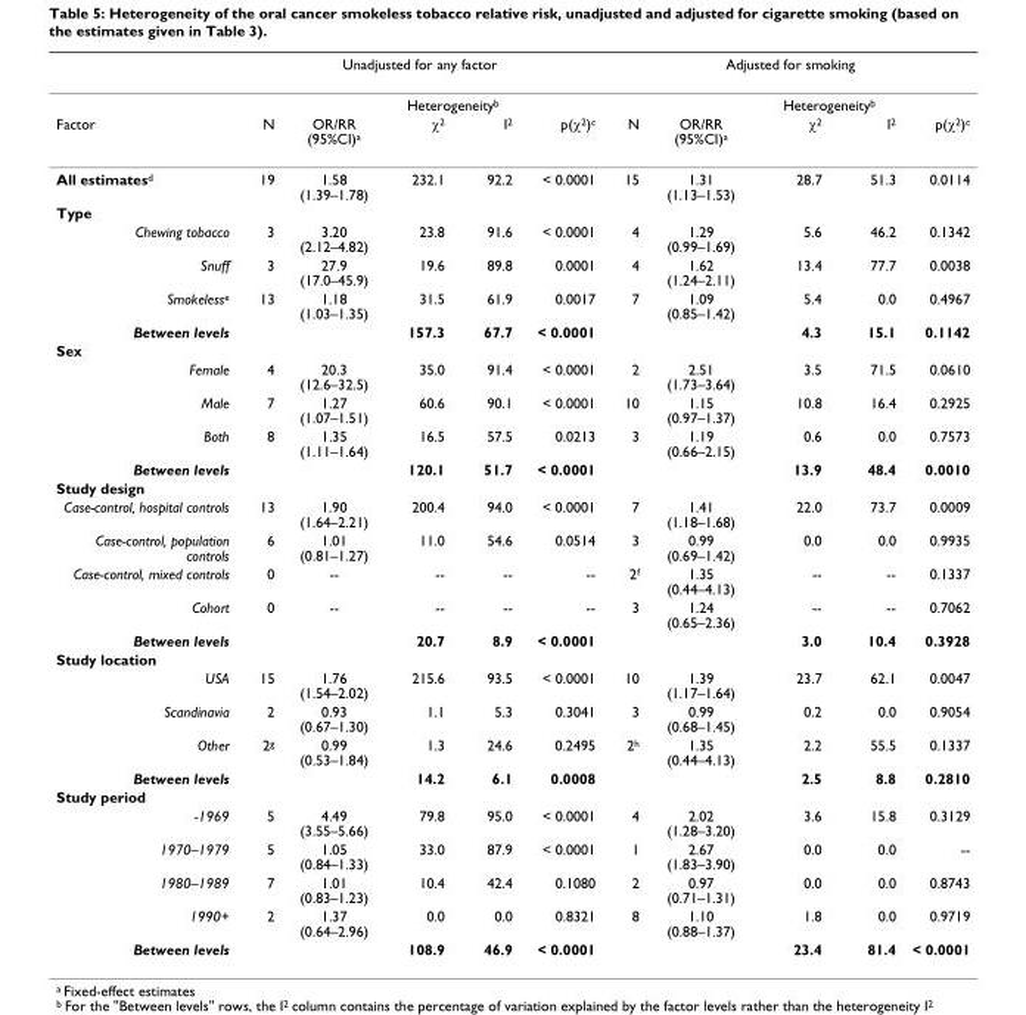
<table><thead><tr><td rowspan="3">Factor</td><td colspan="5">Unadjusted for any factor</td><td colspan="5">Adjusted for smoking</td></tr><tr><td rowspan="2">N</td><td rowspan="2">OR/RR (95%CI)<sup>a</sup></td><td colspan="2">Heterogeneity<sup>b</sup></td><td rowspan="2">p(χ<sup>2</sup>)<sup>c</sup></td><td rowspan="2">N</td><td rowspan="2">OR/RR (95%CI)<sup>a</sup></td><td colspan="2">Heterogeneity<sup>b</sup></td><td rowspan="2">p(χ<sup>2</sup>)<sup>c</sup></td></tr><tr><td>χ<sup>2</sup></td><td>I<sup>2</sup></td><td>χ<sup>2</sup></td><td>I<sup>2</sup></td></tr></thead><tbody><tr><td>All estimates<sup>d</sup></td><td>19</td><td>1.58 (1.39–1.78)</td><td>232.1</td><td>92.2</td><td>&lt; 0.0001</td><td>15</td><td>1.31 (1.13–1.53)</td><td>28.7</td><td>51.3</td><td>0.0114</td></tr><tr><td colspan="11">Type</td></tr><tr><td>Chewing tobacco</td><td>3</td><td>3.20 (2.12–4.82)</td><td>23.8</td><td>91.6</td><td>&lt; 0.0001</td><td>4</td><td>1.29 (0.99–1.69)</td><td>5.6</td><td>46.2</td><td>0.1342</td></tr><tr><td>Snuff</td><td>3</td><td>27.9 (17.0–45.9)</td><td>19.6</td><td>89.8</td><td>0.0001</td><td>4</td><td>1.62 (1.24–2.11)</td><td>13.4</td><td>77.7</td><td>0.0038</td></tr><tr><td>Smokeless<sup>e</sup></td><td>13</td><td>1.18 (1.03–1.35)</td><td>31.5</td><td>61.9</td><td>0.0017</td><td>7</td><td>1.09 (0.85–1.42)</td><td>5.4</td><td>0.0</td><td>0.4967</td></tr><tr><td>Between levels</td><td></td><td></td><td>157.3</td><td>67.7</td><td>&lt; 0.0001</td><td></td><td></td><td>4.3</td><td>15.1</td><td>0.1142</td></tr><tr><td colspan="11">Sex</td></tr><tr><td>Female</td><td>4</td><td>20.3 (12.6–32.5)</td><td>35.0</td><td>91.4</td><td>&lt; 0.0001</td><td>2</td><td>2.51 (1.73–3.64)</td><td>3.5</td><td>71.5</td><td>0.0610</td></tr><tr><td>Male</td><td>7</td><td>1.27 (1.07–1.51)</td><td>60.6</td><td>90.1</td><td>&lt; 0.0001</td><td>10</td><td>1.15 (0.97–1.37)</td><td>10.8</td><td>16.4</td><td>0.2925</td></tr><tr><td>Both</td><td>8</td><td>1.35 (1.11–1.64)</td><td>16.5</td><td>57.5</td><td>0.0213</td><td>3</td><td>1.19 (0.66–2.15)</td><td>0.6</td><td>0.0</td><td>0.7573</td></tr><tr><td>Between levels</td><td></td><td></td><td>120.1</td><td>51.7</td><td>&lt; 0.0001</td><td></td><td></td><td>13.9</td><td>48.4</td><td>0.0010</td></tr><tr><td colspan="11">Study design</td></tr><tr><td>Case-control, hospital controls</td><td>13</td><td>1.90 (1.64–2.21)</td><td>200.4</td><td>94.0</td><td>&lt; 0.0001</td><td>7</td><td>1.41 (1.18–1.68)</td><td>22.0</td><td>73.7</td><td>0.0009</td></tr><tr><td>Case-control, population controls</td><td>6</td><td>1.01 (0.81–1.27)</td><td>11.0</td><td>54.6</td><td>0.0514</td><td>3</td><td>0.99 (0.69–1.42)</td><td>0.0</td><td>0.0</td><td>0.9935</td></tr><tr><td>Case-control, mixed controls</td><td>0</td><td>--</td><td>--</td><td>--</td><td>--</td><td>2<sup>f</sup></td><td>1.35 (0.44–4.13)</td><td>--</td><td>--</td><td>0.1337</td></tr><tr><td>Cohort</td><td>0</td><td>--</td><td>--</td><td>--</td><td>--</td><td>3</td><td>1.24 (0.65–2.36)</td><td>--</td><td>--</td><td>0.7062</td></tr><tr><td>Between levels</td><td></td><td></td><td>20.7</td><td>8.9</td><td>&lt; 0.0001</td><td></td><td></td><td>3.0</td><td>10.4</td><td>0.3928</td></tr><tr><td colspan="11">Study location</td></tr><tr><td>USA</td><td>15</td><td>1.76 (1.54–2.02)</td><td>215.6</td><td>93.5</td><td>&lt; 0.0001</td><td>10</td><td>1.39 (1.17–1.64)</td><td>23.7</td><td>62.1</td><td>0.0047</td></tr><tr><td>Scandinavia</td><td>2</td><td>0.93 (0.67–1.30)</td><td>1.1</td><td>5.3</td><td>0.3041</td><td>3</td><td>0.99 (0.68–1.45)</td><td>0.2</td><td>0.0</td><td>0.9054</td></tr><tr><td>Other</td><td>2<sup>g</sup></td><td>0.99 (0.53–1.84)</td><td>1.3</td><td>24.6</td><td>0.2495</td><td>2<sup>h</sup></td><td>1.35 (0.44–4.13)</td><td>2.2</td><td>55.5</td><td>0.1337</td></tr><tr><td>Between levels</td><td></td><td></td><td>14.2</td><td>6.1</td><td>0.0008</td><td></td><td></td><td>2.5</td><td>8.8</td><td>0.2810</td></tr><tr><td colspan="11">Study period</td></tr><tr><td>-1969</td><td>5</td><td>4.49 (3.55–5.66)</td><td>79.8</td><td>95.0</td><td>&lt; 0.0001</td><td>4</td><td>2.02 (1.28–3.20)</td><td>3.6</td><td>15.8</td><td>0.3129</td></tr><tr><td>1970–1979</td><td>5</td><td>1.05 (0.84–1.33)</td><td>33.0</td><td>87.9</td><td>&lt; 0.0001</td><td>1</td><td>2.67 (1.83–3.90)</td><td>0.0</td><td>0.0</td><td>--</td></tr><tr><td>1980–1989</td><td>7</td><td>1.01 (0.83–1.23)</td><td>10.4</td><td>42.4</td><td>0.1080</td><td>2</td><td>0.97 (0.71–1.31)</td><td>0.0</td><td>0.0</td><td>0.8743</td></tr><tr><td>1990+</td><td>2</td><td>1.37 (0.64–2.96)</td><td>0.0</td><td>0.0</td><td>0.8321</td><td>8</td><td>1.10 (0.88–1.37)</td><td>1.8</td><td>0.0</td><td>0.9719</td></tr><tr><td>Between levels</td><td></td><td></td><td>108.9</td><td>46.9</td><td>&lt; 0.0001</td><td></td><td></td><td>23.4</td><td>81.4</td><td>&lt; 0.0001</td></tr></tbody></table>